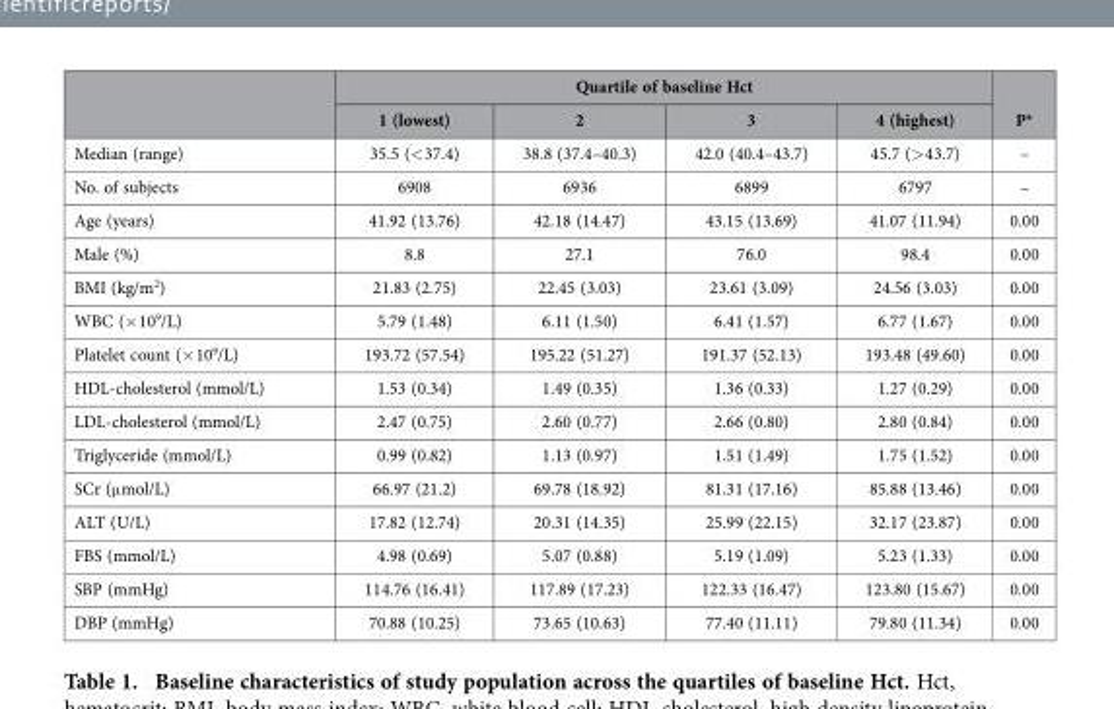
<table><thead><tr><td rowspan="2"></td><td colspan="4">Quartile of baseline Hct</td><td rowspan="2">P*</td></tr><tr><td>1 (lowest)</td><td>2</td><td>3</td><td>4 (highest)</td></tr></thead><tbody><tr><td>Median (range)</td><td>35.5 (&lt; 37.4)</td><td>38.8 (37.4–40.3)</td><td>42.0 (40.4–43.7)</td><td>45.7 (&gt; 43.7)</td><td>–</td></tr><tr><td>No. of subjects</td><td>6908</td><td>6936</td><td>6899</td><td>6797</td><td>–</td></tr><tr><td>Age (years)</td><td>41.92 (13.76)</td><td>42.18 (14.47)</td><td>43.15 (13.69)</td><td>41.07 (11.94)</td><td>0.00</td></tr><tr><td>Male (%)</td><td>8.8</td><td>27.1</td><td>76.0</td><td>98.4</td><td>0.00</td></tr><tr><td>BMI (kg/m<sup>2</sup>)</td><td>21.83 (2.75)</td><td>22.45 (3.03)</td><td>23.61 (3.09)</td><td>24.56 (3.03)</td><td>0.00</td></tr><tr><td>WBC (× 10<sup>9</sup>/L)</td><td>5.79 (1.48)</td><td>6.11 (1.50)</td><td>6.41 (1.57)</td><td>6.77 (1.67)</td><td>0.00</td></tr><tr><td>Platelet count (× 10<sup>9</sup>/L)</td><td>193.72 (57.54)</td><td>195.22 (51.27)</td><td>191.37 (52.13)</td><td>193.48 (49.60)</td><td>0.00</td></tr><tr><td>HDL-cholesterol (mmol/L)</td><td>1.53 (0.34)</td><td>1.49 (0.35)</td><td>1.36 (0.33)</td><td>1.27 (0.29)</td><td>0.00</td></tr><tr><td>LDL-cholesterol (mmol/L)</td><td>2.47 (0.75)</td><td>2.60 (0.77)</td><td>2.66 (0.80)</td><td>2.80 (0.84)</td><td>0.00</td></tr><tr><td>Triglyceride (mmol/L)</td><td>0.99 (0.82)</td><td>1.13 (0.97)</td><td>1.51 (1.49)</td><td>1.75 (1.52)</td><td>0.00</td></tr><tr><td>SCr (μ mol/L)</td><td>66.97 (21.2)</td><td>69.78 (18.92)</td><td>81.31 (17.16)</td><td>85.88 (13.46)</td><td>0.00</td></tr><tr><td>ALT (U/L)</td><td>17.82 (12.74)</td><td>20.31 (14.35)</td><td>25.99 (22.15)</td><td>32.17 (23.87)</td><td>0.00</td></tr><tr><td>FBS (mmol/L)</td><td>4.98 (0.69)</td><td>5.07 (0.88)</td><td>5.19 (1.09)</td><td>5.23 (1.33)</td><td>0.00</td></tr><tr><td>SBP (mmHg)</td><td>114.76 (16.41)</td><td>117.89 (17.23)</td><td>122.33 (16.47)</td><td>123.80 (15.67)</td><td>0.00</td></tr><tr><td>DBP (mmHg)</td><td>70.88 (10.25)</td><td>73.65 (10.63)</td><td>77.40 (11.11)</td><td>79.80 (11.34)</td><td>0.00</td></tr></tbody></table>